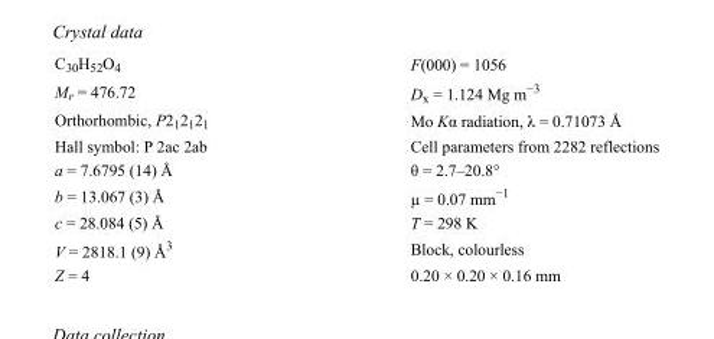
<table><tbody><tr><td>C<sub>30</sub>H<sub>52</sub>O<sub>4</sub></td><td>F(000) = 1056</td></tr><tr><td>M<sub>r</sub> = 476.72</td><td>D<sub>x</sub> = 1.124 Mg m<sup>−3</sup></td></tr><tr><td>Orthorhombic, P2<sub>1</sub>2<sub>1</sub>2<sub>1</sub></td><td>Mo Kα radiation, λ = 0.71073 Å</td></tr><tr><td>Hall symbol: P 2ac 2ab</td><td>Cell parameters from 2282 reflections</td></tr><tr><td>a = 7.6795 (14) Å</td><td>θ = 2.7–20.8°</td></tr><tr><td>b = 13.067 (3) Å</td><td>µ = 0.07 mm<sup>−1</sup></td></tr><tr><td>c = 28.084 (5) Å</td><td>T = 298 K</td></tr><tr><td>V = 2818.1 (9) Å<sup>3</sup></td><td>Block, colourless</td></tr><tr><td>Z = 4</td><td>0.20 × 0.20 × 0.16 mm</td></tr></tbody></table>